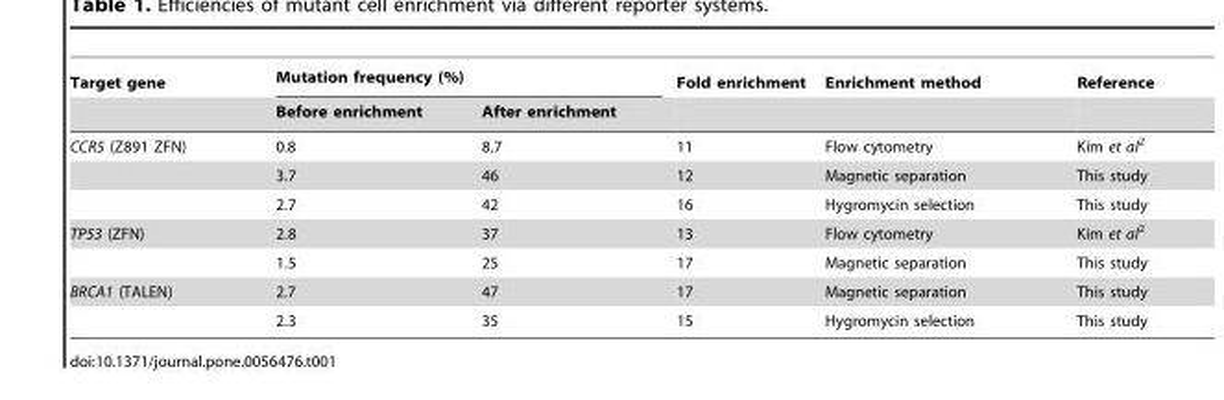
<table><thead><tr><td rowspan="2">Target gene</td><td colspan="2">Mutation frequency (%)</td><td rowspan="2">Fold enrichment</td><td rowspan="2">Enrichment method</td><td rowspan="2">Reference</td></tr><tr><td>Before enrichment</td><td>After enrichment</td></tr></thead><tbody><tr><td rowspan="3">CCR5 (Z891 ZFN)</td><td>0.8</td><td>8.7</td><td>11</td><td>Flow cytometry</td><td>Kim et al<sup>2</sup></td></tr><tr><td>3.7</td><td>46</td><td>12</td><td>Magnetic separation</td><td>This study</td></tr><tr><td>2.7</td><td>42</td><td>16</td><td>Hygromycin selection</td><td>This study</td></tr><tr><td rowspan="2">TP53 (ZFN)</td><td>2.8</td><td>37</td><td>13</td><td>Flow cytometry</td><td>Kim et al<sup>2</sup></td></tr><tr><td>1.5</td><td>25</td><td>17</td><td>Magnetic separation</td><td>This study</td></tr><tr><td rowspan="2">BRCA1 (TALEN)</td><td>2.7</td><td>47</td><td>17</td><td>Magnetic separation</td><td>This study</td></tr><tr><td>2.3</td><td>35</td><td>15</td><td>Hygromycin selection</td><td>This study</td></tr></tbody></table>